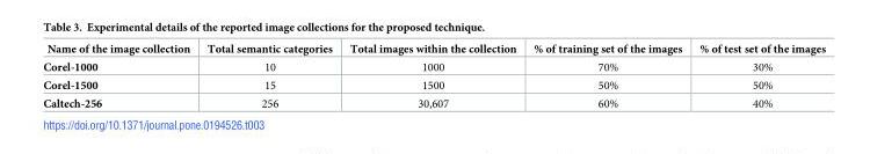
<table><thead><tr><td>Name of the image collection</td><td>Total semantic categories</td><td>Total images within the collection</td><td>% of training set of the images</td><td>% of test set of the images</td></tr></thead><tbody><tr><td>Corel-1000</td><td>10</td><td>1000</td><td>70%</td><td>30%</td></tr><tr><td>Corel-1500</td><td>15</td><td>1500</td><td>50%</td><td>50%</td></tr><tr><td>Caltech-256</td><td>256</td><td>30,607</td><td>60%</td><td>40%</td></tr></tbody></table>